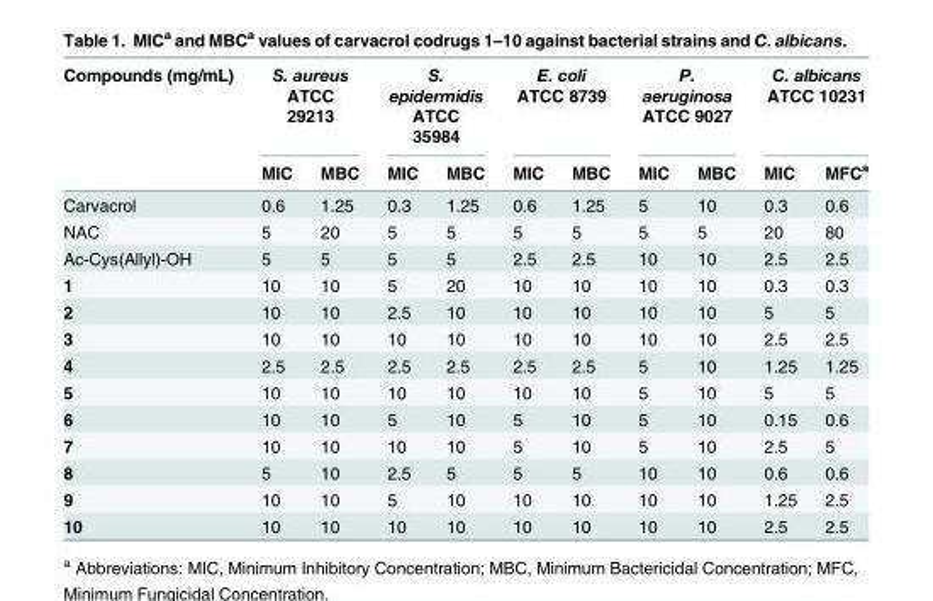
<table><thead><tr><td rowspan="2">Compounds (mg/mL)</td><td colspan="2">S. aureus ATCC 29213</td><td colspan="2">S. epidermidis ATCC 35984</td><td colspan="2">E. coli ATCC 8739</td><td colspan="2">P. aeruginosa ATCC 9027</td><td colspan="2">C. albicans ATCC 10231</td></tr><tr><td>MIC</td><td>MBC</td><td>MIC</td><td>MBC</td><td>MIC</td><td>MBC</td><td>MIC</td><td>MBC</td><td>MIC</td><td>MFC<sup>a</sup></td></tr></thead><tbody><tr><td>Carvacrol</td><td>0.6</td><td>1.25</td><td>0.3</td><td>1.25</td><td>0.6</td><td>1.25</td><td>5</td><td>10</td><td>0.3</td><td>0.6</td></tr><tr><td>NAC</td><td>5</td><td>20</td><td>5</td><td>5</td><td>5</td><td>5</td><td>5</td><td>5</td><td>20</td><td>80</td></tr><tr><td>Ac-Cys(Allyl)-OH</td><td>5</td><td>5</td><td>5</td><td>5</td><td>2.5</td><td>2.5</td><td>10</td><td>10</td><td>2.5</td><td>2.5</td></tr><tr><td>1</td><td>10</td><td>10</td><td>5</td><td>20</td><td>10</td><td>10</td><td>10</td><td>10</td><td>0.3</td><td>0.3</td></tr><tr><td>2</td><td>10</td><td>10</td><td>2.5</td><td>10</td><td>10</td><td>10</td><td>10</td><td>10</td><td>5</td><td>5</td></tr><tr><td>3</td><td>10</td><td>10</td><td>10</td><td>10</td><td>10</td><td>10</td><td>10</td><td>10</td><td>2.5</td><td>2.5</td></tr><tr><td>4</td><td>2.5</td><td>2.5</td><td>2.5</td><td>2.5</td><td>2.5</td><td>2.5</td><td>5</td><td>10</td><td>1.25</td><td>1.25</td></tr><tr><td>5</td><td>10</td><td>10</td><td>10</td><td>10</td><td>10</td><td>10</td><td>5</td><td>10</td><td>5</td><td>5</td></tr><tr><td>6</td><td>10</td><td>10</td><td>5</td><td>10</td><td>5</td><td>10</td><td>5</td><td>10</td><td>0.15</td><td>0.6</td></tr><tr><td>7</td><td>10</td><td>10</td><td>10</td><td>10</td><td>5</td><td>10</td><td>5</td><td>10</td><td>2.5</td><td>5</td></tr><tr><td>8</td><td>5</td><td>10</td><td>2.5</td><td>5</td><td>5</td><td>5</td><td>10</td><td>10</td><td>0.6</td><td>0.6</td></tr><tr><td>9</td><td>10</td><td>10</td><td>5</td><td>10</td><td>10</td><td>10</td><td>10</td><td>10</td><td>1.25</td><td>2.5</td></tr><tr><td>10</td><td>10</td><td>10</td><td>10</td><td>10</td><td>10</td><td>10</td><td>10</td><td>10</td><td>2.5</td><td>2.5</td></tr></tbody></table>